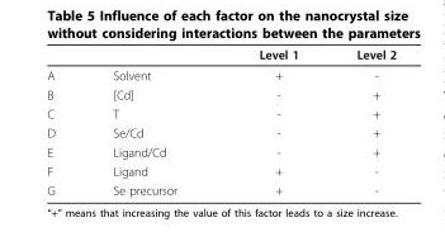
<table><thead><tr><td></td><td></td><td>Level 1</td><td>Level 2</td></tr></thead><tbody><tr><td>A</td><td>Solvent</td><td>+</td><td>-</td></tr><tr><td>B</td><td>[Cd]</td><td>-</td><td>+</td></tr><tr><td>C</td><td>T</td><td>-</td><td>+</td></tr><tr><td>D</td><td>Se/Cd</td><td>-</td><td>+</td></tr><tr><td>E</td><td>Ligand/Cd</td><td>-</td><td>+</td></tr><tr><td>F</td><td>Ligand</td><td>+</td><td>-</td></tr><tr><td>G</td><td>Se precursor</td><td>+</td><td>-</td></tr></tbody></table>